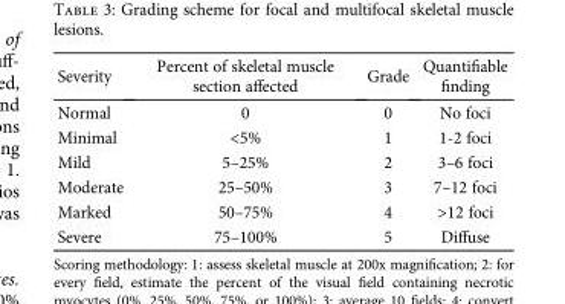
<table><thead><tr><td>Severity</td><td>Percent of skeletal muscle section affected</td><td>Grade</td><td>Quantifiable finding</td></tr></thead><tbody><tr><td>Normal</td><td>0</td><td>0</td><td>No foci</td></tr><tr><td>Minimal</td><td>&lt;5%</td><td>1</td><td>1-2 foci</td></tr><tr><td>Mild</td><td>5–25%</td><td>2</td><td>3–6 foci</td></tr><tr><td>Moderate</td><td>25–50%</td><td>3</td><td>7–12 foci</td></tr><tr><td>Marked</td><td>50–75%</td><td>4</td><td>&gt;12 foci</td></tr><tr><td>Severe</td><td>75–100%</td><td>5</td><td>Diffuse</td></tr></tbody></table>